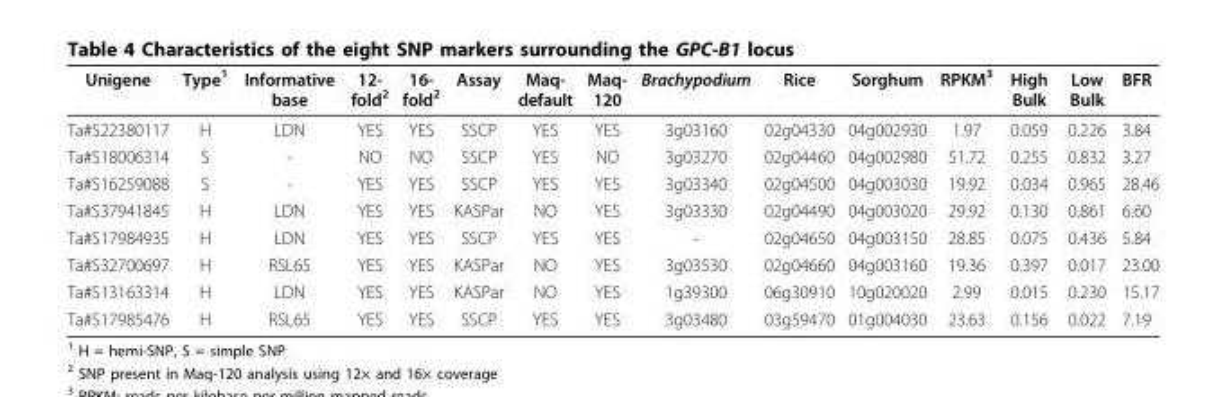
<table><thead><tr><td>Unigene</td><td>Type<sup>1</sup></td><td>Informative base</td><td>12- fold<sup>2</sup></td><td>16- fold<sup>2</sup></td><td>Assay</td><td>Maq- default</td><td>Maq- 120</td><td>Brachypodium</td><td>Rice</td><td>Sorghum</td><td>RPKM<sup>3</sup></td><td>High Bulk</td><td>Low Bulk</td><td>BFR</td></tr></thead><tbody><tr><td>Ta#S22380117</td><td>H</td><td>LDN</td><td>YES</td><td>YES</td><td>SSCP</td><td>YES</td><td>YES</td><td>3g03160</td><td>02g04330</td><td>04g002930</td><td>1.97</td><td>0.059</td><td>0.226</td><td>3.84</td></tr><tr><td>Ta#S18006314</td><td>S</td><td>-</td><td>NO</td><td>NO</td><td>SSCP</td><td>YES</td><td>NO</td><td>3g03270</td><td>02g04460</td><td>04g002980</td><td>51.72</td><td>0.255</td><td>0.832</td><td>3.27</td></tr><tr><td>Ta#S16259088</td><td>S</td><td>-</td><td>YES</td><td>YES</td><td>SSCP</td><td>YES</td><td>YES</td><td>3g03340</td><td>02g04500</td><td>04g003030</td><td>19.92</td><td>0.034</td><td>0.965</td><td>28.46</td></tr><tr><td>Ta#S37941845</td><td>H</td><td>LDN</td><td>YES</td><td>YES</td><td>KASPar</td><td>NO</td><td>YES</td><td>3g03330</td><td>02g04490</td><td>04g003020</td><td>29.92</td><td>0.130</td><td>0.861</td><td>6.60</td></tr><tr><td>Ta#S17984935</td><td>H</td><td>LDN</td><td>YES</td><td>YES</td><td>SSCP</td><td>YES</td><td>YES</td><td>-</td><td>02g04650</td><td>04g003150</td><td>28.85</td><td>0.075</td><td>0.436</td><td>5.84</td></tr><tr><td>Ta#S32700697</td><td>H</td><td>RSL65</td><td>YES</td><td>YES</td><td>KASPar</td><td>NO</td><td>YES</td><td>3g03530</td><td>02g04660</td><td>04g003160</td><td>19.36</td><td>0.397</td><td>0.017</td><td>23.00</td></tr><tr><td>Ta#S13163314</td><td>H</td><td>LDN</td><td>YES</td><td>YES</td><td>KASPar</td><td>NO</td><td>YES</td><td>1g39300</td><td>06g30910</td><td>10g020020</td><td>2.99</td><td>0.015</td><td>0.230</td><td>15.17</td></tr><tr><td>Ta#S17985476</td><td>H</td><td>RSL65</td><td>YES</td><td>YES</td><td>SSCP</td><td>YES</td><td>YES</td><td>3g03480</td><td>03g59470</td><td>01g004030</td><td>23.63</td><td>0.156</td><td>0.022</td><td>7.19</td></tr></tbody></table>